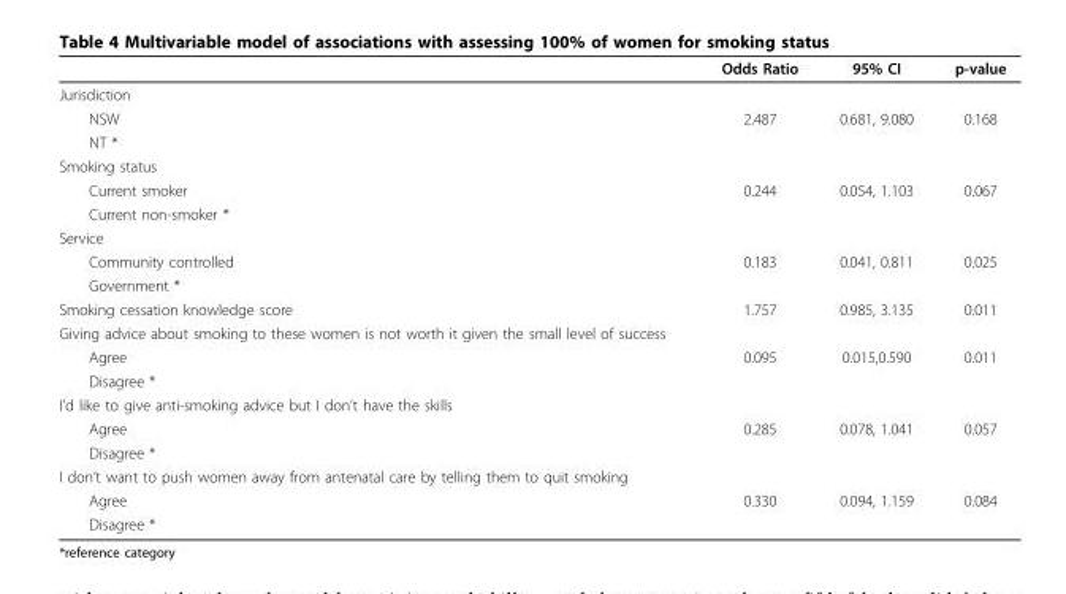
<table><thead><tr><td></td><td>Odds Ratio</td><td>95% CI</td><td>p-value</td></tr></thead><tbody><tr><td colspan="4">Jurisdiction</td></tr><tr><td>NSW</td><td>2.487</td><td>0.681, 9.080</td><td>0.168</td></tr><tr><td colspan="4">NT *</td></tr><tr><td colspan="4">Smoking status</td></tr><tr><td>Current smoker</td><td>0.244</td><td>0.054, 1.103</td><td>0.067</td></tr><tr><td colspan="4">Current non-smoker *</td></tr><tr><td colspan="4">Service</td></tr><tr><td>Community controlled</td><td>0.183</td><td>0.041, 0.811</td><td>0.025</td></tr><tr><td colspan="4">Government *</td></tr><tr><td>Smoking cessation knowledge score</td><td>1.757</td><td>0.985, 3.135</td><td>0.011</td></tr><tr><td colspan="4">Giving advice about smoking to these women is not worth it given the small level of success</td></tr><tr><td>Agree</td><td>0.095</td><td>0.015,0.590</td><td>0.011</td></tr><tr><td colspan="4">Disagree *</td></tr><tr><td colspan="4">I’d like to give anti-smoking advice but I don’t have the skills</td></tr><tr><td>Agree</td><td>0.285</td><td>0.078, 1.041</td><td>0.057</td></tr><tr><td colspan="4">Disagree *</td></tr><tr><td colspan="4">I don’t want to push women away from antenatal care by telling them to quit smoking</td></tr><tr><td>Agree</td><td>0.330</td><td>0.094, 1.159</td><td>0.084</td></tr><tr><td>Disagree *</td><td></td><td></td><td></td></tr></tbody></table>